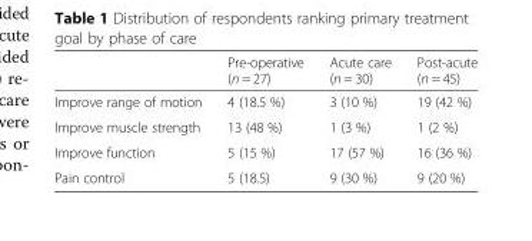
<table><thead><tr><td></td><td>Pre-operative (n = 27)</td><td>Acute care (n = 30)</td><td>Post-acute (n = 45)</td></tr></thead><tbody><tr><td>Improve range of motion</td><td>4 (18.5 %)</td><td>3 (10 %)</td><td>19 (42 %)</td></tr><tr><td>Improve muscle strength</td><td>13 (48 %)</td><td>1 (3 %)</td><td>1 (2 %)</td></tr><tr><td>Improve function</td><td>5 (15 %)</td><td>17 (57 %)</td><td>16 (36 %)</td></tr><tr><td>Pain control</td><td>5 (18.5)</td><td>9 (30 %)</td><td>9 (20 %)</td></tr></tbody></table>